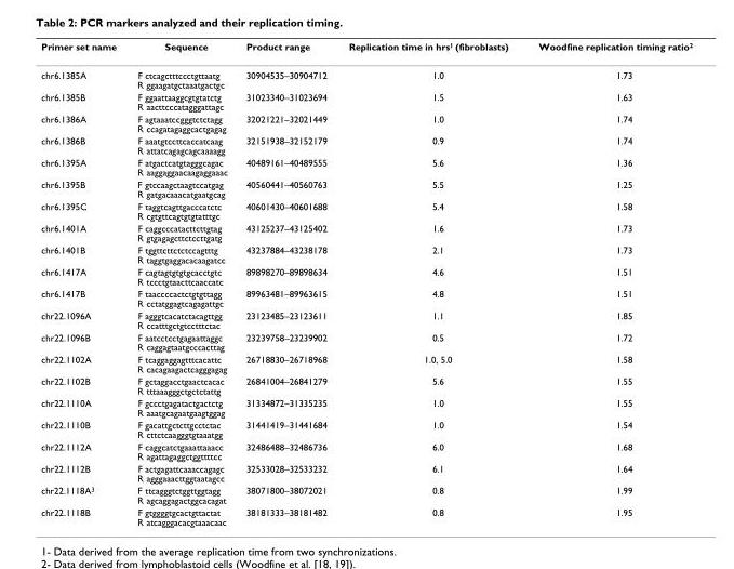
<table><thead><tr><td>Primer set name</td><td>Sequence</td><td>Product range</td><td>Replication time in hrs1 (fibroblasts)</td><td>Woodfine replication timing ratio2</td></tr></thead><tbody><tr><td>chr6.1385A</td><td>F ctcagctttccctgttaatg R ggaagatgctaaatgactgc</td><td>30904535–30904712</td><td>1.0</td><td>1.73</td></tr><tr><td>chr6.1385B</td><td>F ggaattaaggcgtgtatctg R aacttcccatagggattagc</td><td>31023340–31023694</td><td>1.5</td><td>1.63</td></tr><tr><td>chr6.1386A</td><td>F agtaaatccgggtctctagg R ccagatagaggcactgagag</td><td>32021221–32021449</td><td>1.0</td><td>1.74</td></tr><tr><td>chr6.1386B</td><td>F aaatgtccttcaccatcaag R attatcagagcagcaaaagg</td><td>32151938–32152179</td><td>0.9</td><td>1.74</td></tr><tr><td>chr6.1395A</td><td>F atgactcatgtagggcagac R aaggaggaacaagaggaaac</td><td>40489161–40489555</td><td>5.6</td><td>1.36</td></tr><tr><td>chr6.1395B</td><td>F gtccaagctaagtccatgag R gatgacaaacatgaatgcag</td><td>40560441–40560763</td><td>5.5</td><td>1.25</td></tr><tr><td>chr6.1395C</td><td>F taggtcagttgacccatctc R cgtgttcagtgtgtatttgc</td><td>40601430–40601688</td><td>5.4</td><td>1.58</td></tr><tr><td>chr6.1401A</td><td>F caggcccatacttcttgtag R gtgagagcttctccttgatg</td><td>43125237–43125402</td><td>1.6</td><td>1.73</td></tr><tr><td>chr6.1401B</td><td>F tggttcttctctccagtttg R taggtgaggacacaagatcc</td><td>43237884–43238178</td><td>2.1</td><td>1.73</td></tr><tr><td>chr6.1417A</td><td>F cagtagtgtgtgcacctgtc R tccctgtaacttcaaccatc</td><td>89898270–89898634</td><td>4.6</td><td>1.51</td></tr><tr><td>chr6.1417B</td><td>F taaccccactctgtgttagg R cctatggagtcagagattgc</td><td>89963481–89963615</td><td>4.8</td><td>1.51</td></tr><tr><td>chr22.1096A</td><td>F agggtcacatctacagttgg R ccatttgctgtcctttctac</td><td>23123485–23123611</td><td>1.1</td><td>1.85</td></tr><tr><td>chr22.1096B</td><td>F aatcctcctgagaattaggc R caggagtaatgcccacttag</td><td>23239758–23239902</td><td>0.5</td><td>1.72</td></tr><tr><td>chr22.1102A</td><td>F tcaggaggagtttcacattc R cacagaagactcagggagag</td><td>26718830–26718968</td><td>1.0, 5.0</td><td>1.58</td></tr><tr><td>chr22.1102B</td><td>F gctaggacctgaactcacac R tttaaagggctgctctattg</td><td>26841004–26841279</td><td>5.6</td><td>1.55</td></tr><tr><td>chr22.1110A</td><td>F gccctgagatactgactctg R aaatgcagaatgaagtggag</td><td>31334872–31335235</td><td>1.0</td><td>1.55</td></tr><tr><td>chr22.1110B</td><td>F gacattgctcttgcctctac R cttctcaagggtgtaaatgg</td><td>31441419–31441684</td><td>1.0</td><td>1.54</td></tr><tr><td>chr22.1112A</td><td>F caggcatctgaaattaaacc R agattagaggctggttttcc</td><td>32486488–32486736</td><td>6.0</td><td>1.68</td></tr><tr><td>chr22.1112B</td><td>F actgagattcaaaccagagc R agggaaacttggtaatagcc</td><td>32533028–32533232</td><td>6.1</td><td>1.64</td></tr><tr><td>chr22.1118A3</td><td>F ttcagggtctggttggtagg R agcaggagactggcacagat</td><td>38071800–38072021</td><td>0.8</td><td>1.99</td></tr><tr><td>chr22.1118B</td><td>F gtggggtgcactgttactat R atcagggacacgtaaacaac</td><td>38181333–38181482</td><td>0.8</td><td>1.95</td></tr></tbody></table>